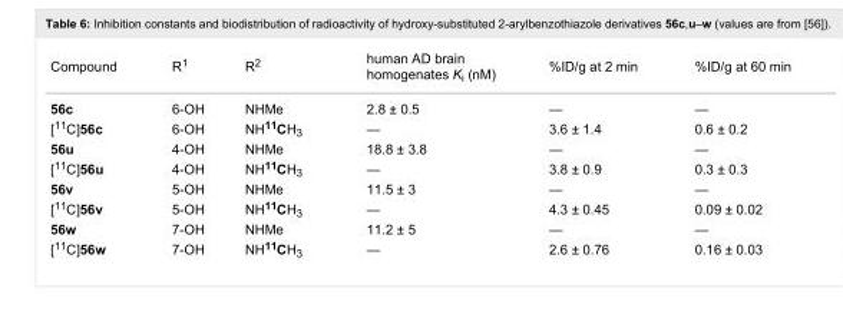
<table><tbody><tr><td>Compound</td><td>R<sup>1</sup></td><td>R<sup>2</sup></td><td>human AD brain homogenates K<sub>i</sub> (nM)</td><td>%ID/g at 2 min</td><td>%ID/g at 60 min</td></tr><tr><td>56c</td><td>6-OH</td><td>NHMe</td><td>2.8 ± 0.5</td><td>—</td><td>—</td></tr><tr><td>[<sup>11</sup>C]56c</td><td>6-OH</td><td>NH<sup>11</sup>CH<sub>3</sub></td><td>—</td><td>3.6 ± 1.4</td><td>0.6 ± 0.2</td></tr><tr><td>56u</td><td>4-OH</td><td>NHMe</td><td>18.8 ± 3.8</td><td>—</td><td>—</td></tr><tr><td>[<sup>11</sup>C]56u</td><td>4-OH</td><td>NH<sup>11</sup>CH<sub>3</sub></td><td>—</td><td>3.8 ± 0.9</td><td>0.3 ± 0.3</td></tr><tr><td>56v</td><td>5-OH</td><td>NHMe</td><td>11.5 ± 3</td><td>—</td><td>—</td></tr><tr><td>[<sup>11</sup>C]56v</td><td>5-OH</td><td>NH<sup>11</sup>CH<sub>3</sub></td><td>—</td><td>4.3 ± 0.45</td><td>0.09 ± 0.02</td></tr><tr><td>56w</td><td>7-OH</td><td>NHMe</td><td>11.2 ± 5</td><td>—</td><td>—</td></tr><tr><td>[<sup>11</sup>C]56w</td><td>7-OH</td><td>NH<sup>11</sup>CH<sub>3</sub></td><td>—</td><td>2.6 ± 0.76</td><td>0.16 ± 0.03</td></tr></tbody></table>